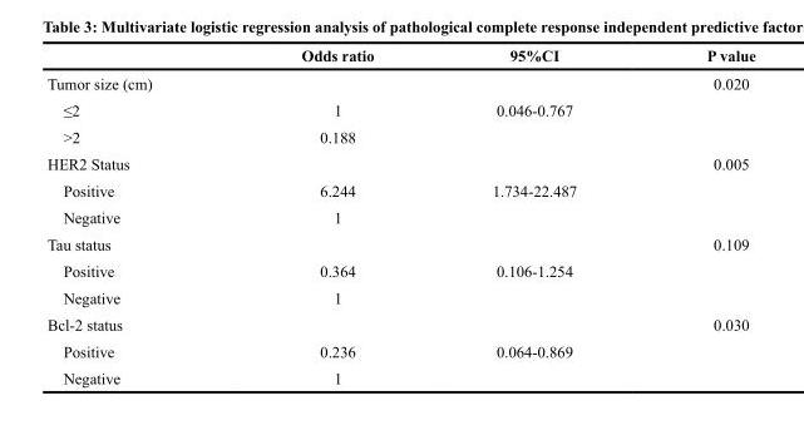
<table><thead><tr><td></td><td>Odds ratio</td><td>95%CI</td><td>P value</td></tr></thead><tbody><tr><td>Tumor size (cm)</td><td></td><td></td><td>0.020</td></tr><tr><td>≤2</td><td>1</td><td>0.046-0.767</td><td></td></tr><tr><td>&gt;2</td><td>0.188</td><td></td><td></td></tr><tr><td>HER2 Status</td><td></td><td></td><td>0.005</td></tr><tr><td>Positive</td><td>6.244</td><td>1.734-22.487</td><td></td></tr><tr><td>Negative</td><td>1</td><td></td><td></td></tr><tr><td>Tau status</td><td></td><td></td><td>0.109</td></tr><tr><td>Positive</td><td>0.364</td><td>0.106-1.254</td><td></td></tr><tr><td>Negative</td><td>1</td><td></td><td></td></tr><tr><td>Bcl-2 status</td><td></td><td></td><td>0.030</td></tr><tr><td>Positive</td><td>0.236</td><td>0.064-0.869</td><td></td></tr><tr><td>Negative</td><td>1</td><td></td><td></td></tr></tbody></table>